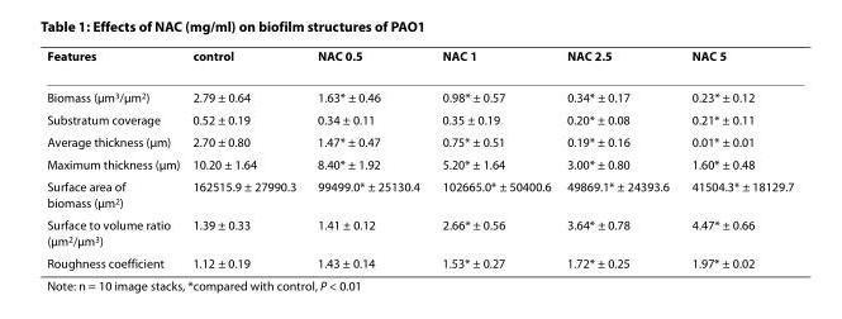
<table><thead><tr><td>Features</td><td>control</td><td>NAC 0.5</td><td>NAC 1</td><td>NAC 2.5</td><td>NAC 5</td></tr></thead><tbody><tr><td>Biomass (μm<sup>3</sup>/μm<sup>2</sup>)</td><td>2.79 ± 0.64</td><td>1.63* ± 0.46</td><td>0.98* ± 0.57</td><td>0.34* ± 0.17</td><td>0.23* ± 0.12</td></tr><tr><td>Substratum coverage</td><td>0.52 ± 0.19</td><td>0.34 ± 0.11</td><td>0.35 ± 0.19</td><td>0.20* ± 0.08</td><td>0.21* ± 0.11</td></tr><tr><td>Average thickness (μm)</td><td>2.70 ± 0.80</td><td>1.47* ± 0.47</td><td>0.75* ± 0.51</td><td>0.19* ± 0.16</td><td>0.01* ± 0.01</td></tr><tr><td>Maximum thickness (μm)</td><td>10.20 ± 1.64</td><td>8.40* ± 1.92</td><td>5.20* ± 1.64</td><td>3.00* ± 0.80</td><td>1.60* ± 0.48</td></tr><tr><td>Surface area of biomass (μm<sup>2</sup>)</td><td>162515.9 ± 27990.3</td><td>99499.0* ± 25130.4</td><td>102665.0* ± 50400.6</td><td>49869.1* ± 24393.6</td><td>41504.3* ± 18129.7</td></tr><tr><td>Surface to volume ratio (μm<sup>2</sup>/μm<sup>3</sup>)</td><td>1.39 ± 0.33</td><td>1.41 ± 0.12</td><td>2.66* ± 0.56</td><td>3.64* ± 0.78</td><td>4.47* ± 0.66</td></tr><tr><td>Roughness coefficient</td><td>1.12 ± 0.19</td><td>1.43 ± 0.14</td><td>1.53* ± 0.27</td><td>1.72* ± 0.25</td><td>1.97* ± 0.02</td></tr></tbody></table>